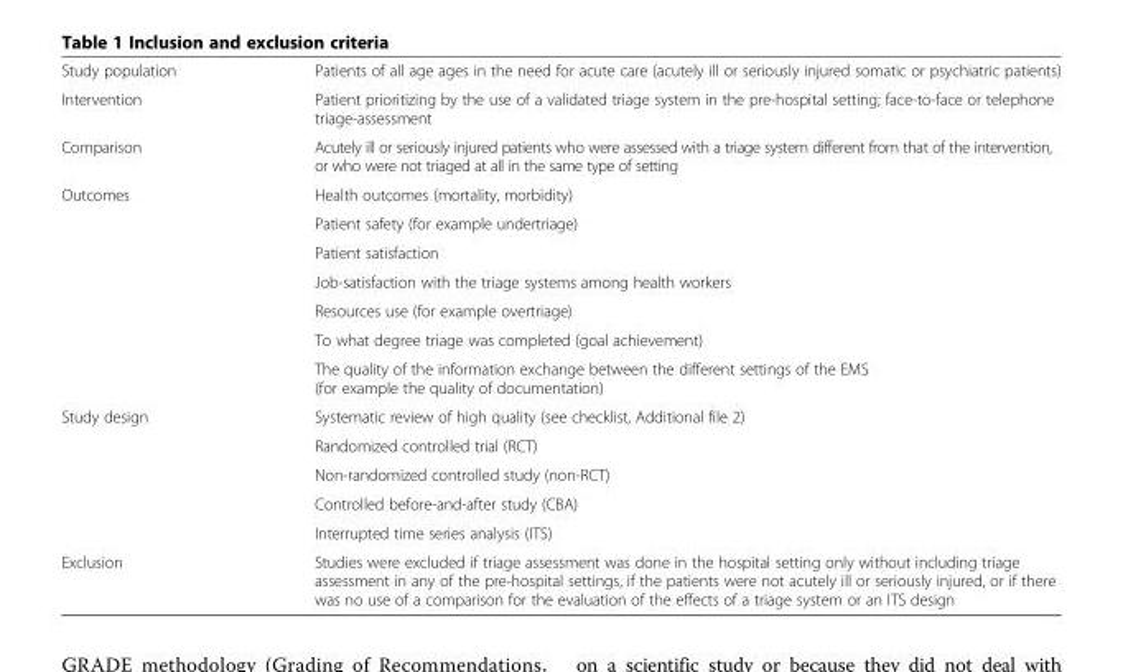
<table><tbody><tr><td>Study population</td><td>Patients of all age ages in the need for acute care (acutely ill or seriously injured somatic or psychiatric patients)</td></tr><tr><td>Intervention</td><td>Patient prioritizing by the use of a validated triage system in the pre-hospital setting; face-to-face or telephone triage-assessment</td></tr><tr><td>Comparison</td><td>Acutely ill or seriously injured patients who were assessed with a triage system different from that of the intervention, or who were not triaged at all in the same type of setting</td></tr><tr><td rowspan="7">Outcomes</td><td>Health outcomes (mortality, morbidity)</td></tr><tr><td>Patient safety (for example undertriage)</td></tr><tr><td>Patient satisfaction</td></tr><tr><td>Job-satisfaction with the triage systems among health workers</td></tr><tr><td>Resources use (for example overtriage)</td></tr><tr><td>To what degree triage was completed (goal achievement)</td></tr><tr><td>The quality of the information exchange between the different settings of the EMS (for example the quality of documentation)</td></tr><tr><td rowspan="5">Study design</td><td>Systematic review of high quality (see checklist, Additional file 2)</td></tr><tr><td>Randomized controlled trial (RCT)</td></tr><tr><td>Non-randomized controlled study (non-RCT)</td></tr><tr><td>Controlled before-and-after study (CBA)</td></tr><tr><td>Interrupted time series analysis (ITS)</td></tr><tr><td>Exclusion</td><td>Studies were excluded if triage assessment was done in the hospital setting only without including triage assessment in any of the pre-hospital settings, if the patients were not acutely ill or seriously injured, or if there was no use of a comparison for the evaluation of the effects of a triage system or an ITS design</td></tr></tbody></table>